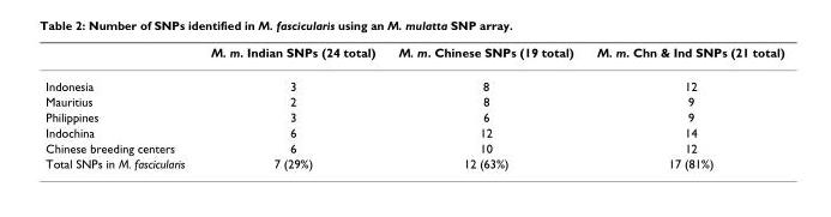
<table><thead><tr><td></td><td>M. m. Indian SNPs (24 total)</td><td>M. m. Chinese SNPs (19 total)</td><td>M. m. Chn &amp; Ind SNPs (21 total)</td></tr></thead><tbody><tr><td>Indonesia</td><td>3</td><td>8</td><td>12</td></tr><tr><td>Mauritius</td><td>2</td><td>8</td><td>9</td></tr><tr><td>Philippines</td><td>3</td><td>6</td><td>9</td></tr><tr><td>Indochina</td><td>6</td><td>12</td><td>14</td></tr><tr><td>Chinese breeding centers</td><td>6</td><td>10</td><td>12</td></tr><tr><td>Total SNPs in M. fascicularis</td><td>7 (29%)</td><td>12 (63%)</td><td>17 (81%)</td></tr></tbody></table>